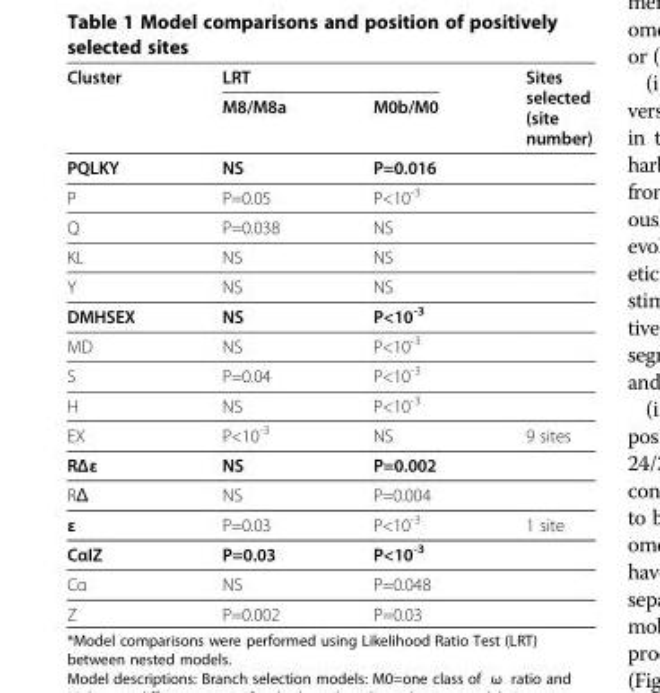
<table><thead><tr><td rowspan="2">Cluster</td><td colspan="2">LRT</td><td rowspan="2">Sites selected (site number)</td></tr><tr><td>M8/M8a</td><td>M0b/M0</td></tr></thead><tbody><tr><td>PQLKY</td><td>NS</td><td>P=0.016</td><td></td></tr><tr><td>P</td><td>P=0.05</td><td>P&lt;10<sup>-3</sup></td><td></td></tr><tr><td>Q</td><td>P=0.038</td><td>NS</td><td></td></tr><tr><td>KL</td><td>NS</td><td>NS</td><td></td></tr><tr><td>Y</td><td>NS</td><td>NS</td><td></td></tr><tr><td>DMHSEX</td><td>NS</td><td>P&lt;10<sup>-3</sup></td><td></td></tr><tr><td>MD</td><td>NS</td><td>P&lt;10<sup>-3</sup></td><td></td></tr><tr><td>S</td><td>P=0.04</td><td>P&lt;10<sup>-3</sup></td><td></td></tr><tr><td>H</td><td>NS</td><td>P&lt;10<sup>-3</sup></td><td></td></tr><tr><td>EX</td><td>P&lt;10<sup>-3</sup></td><td>NS</td><td>9 sites</td></tr><tr><td>RΔε</td><td>NS</td><td>P=0.002</td><td></td></tr><tr><td>RΔ</td><td>NS</td><td>P=0.004</td><td></td></tr><tr><td>ε</td><td>P=0.03</td><td>P&lt;10<sup>-3</sup></td><td>1 site</td></tr><tr><td>CαIZ</td><td>P=0.03</td><td>P&lt;10<sup>-3</sup></td><td></td></tr><tr><td>Cα</td><td>NS</td><td>P=0.048</td><td></td></tr><tr><td>Z</td><td>P=0.002</td><td>P=0.03</td><td></td></tr></tbody></table>